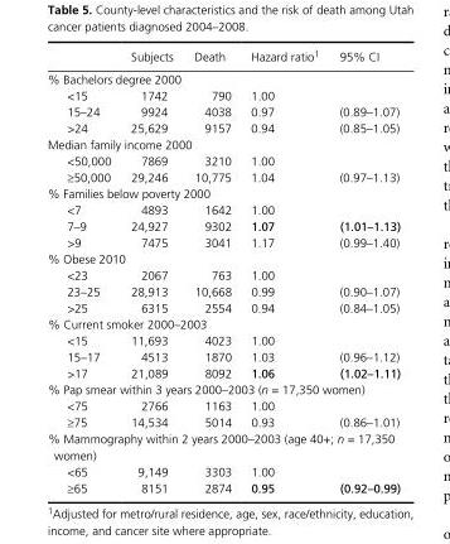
<table><thead><tr><td></td><td>Subjects</td><td>Death</td><td>Hazard ratio1</td><td>95% CI</td></tr></thead><tbody><tr><td colspan="5">% Bachelors degree 2000</td></tr><tr><td>&lt;15</td><td>1742</td><td>790</td><td>1.00</td><td></td></tr><tr><td>15–24</td><td>9924</td><td>4038</td><td>0.97</td><td>(0.89–1.07)</td></tr><tr><td>&gt;24</td><td>25,629</td><td>9157</td><td>0.94</td><td>(0.85–1.05)</td></tr><tr><td colspan="5">Median family income 2000</td></tr><tr><td>&lt;50,000</td><td>7869</td><td>3210</td><td>1.00</td><td></td></tr><tr><td>≥50,000</td><td>29,246</td><td>10,775</td><td>1.04</td><td>(0.97–1.13)</td></tr><tr><td colspan="5">% Families below poverty 2000</td></tr><tr><td>&lt;7</td><td>4893</td><td>1642</td><td>1.00</td><td></td></tr><tr><td>7–9</td><td>24,927</td><td>9302</td><td>1.07</td><td>(1.01–1.13)</td></tr><tr><td>&gt;9</td><td>7475</td><td>3041</td><td>1.17</td><td>(0.99–1.40)</td></tr><tr><td colspan="5">% Obese 2010</td></tr><tr><td>&lt;23</td><td>2067</td><td>763</td><td>1.00</td><td></td></tr><tr><td>23–25</td><td>28,913</td><td>10,668</td><td>0.99</td><td>(0.90–1.07)</td></tr><tr><td>&gt;25</td><td>6315</td><td>2554</td><td>0.94</td><td>(0.84–1.05)</td></tr><tr><td colspan="5">% Current smoker 2000–2003</td></tr><tr><td>&lt;15</td><td>11,693</td><td>4023</td><td>1.00</td><td></td></tr><tr><td>15–17</td><td>4513</td><td>1870</td><td>1.03</td><td>(0.96–1.12)</td></tr><tr><td>&gt;17</td><td>21,089</td><td>8092</td><td>1.06</td><td>(1.02–1.11)</td></tr><tr><td colspan="5">% Pap smear within 3 years 2000–2003 (n = 17,350 women)</td></tr><tr><td>&lt;75</td><td>2766</td><td>1163</td><td>1.00</td><td></td></tr><tr><td>≥75</td><td>14,534</td><td>5014</td><td>0.93</td><td>(0.86–1.01)</td></tr><tr><td colspan="5">% Mammography within 2 years 2000–2003 (age 40+; n = 17,350 women)</td></tr><tr><td>&lt;65</td><td>9,149</td><td>3303</td><td>1.00</td><td></td></tr><tr><td>≥65</td><td>8151</td><td>2874</td><td>0.95</td><td>(0.92–0.99)</td></tr></tbody></table>